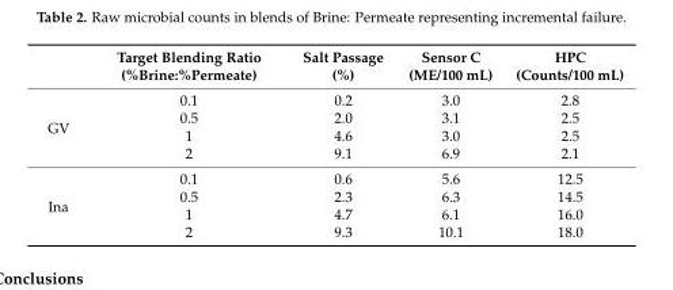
<table><thead><tr><td></td><td>Target Blending Ratio (%Brine:%Permeate)</td><td>Salt Passage (%)</td><td>Sensor C (ME/100 mL)</td><td>HPC (Counts/100 mL)</td></tr></thead><tbody><tr><td rowspan="4">GV</td><td>0.1</td><td>0.2</td><td>3.0</td><td>2.8</td></tr><tr><td>0.5</td><td>2.0</td><td>3.1</td><td>2.5</td></tr><tr><td>1</td><td>4.6</td><td>3.0</td><td>2.5</td></tr><tr><td>2</td><td>9.1</td><td>6.9</td><td>2.1</td></tr><tr><td rowspan="4">Ina</td><td>0.1</td><td>0.6</td><td>5.6</td><td>12.5</td></tr><tr><td>0.5</td><td>2.3</td><td>6.3</td><td>14.5</td></tr><tr><td>1</td><td>4.7</td><td>6.1</td><td>16.0</td></tr><tr><td>2</td><td>9.3</td><td>10.1</td><td>18.0</td></tr></tbody></table>